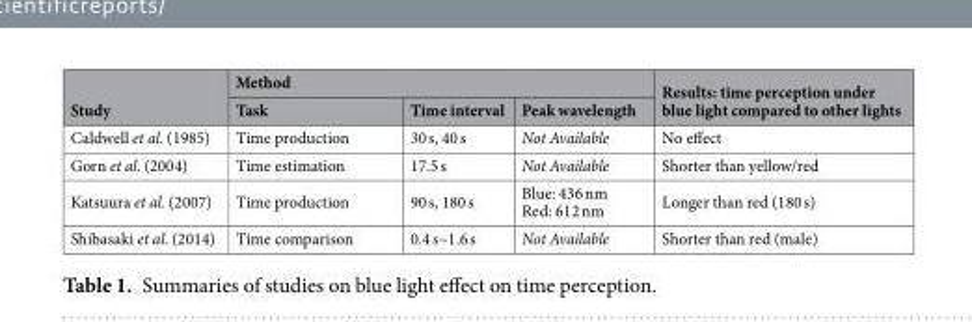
<table><thead><tr><td rowspan="2">Study</td><td colspan="3">Method</td><td rowspan="2">Results: time perception under blue light compared to other lights</td></tr><tr><td>Task</td><td>Time interval</td><td>Peak wavelength</td></tr></thead><tbody><tr><td>Caldwell et al. (1985)</td><td>Time production</td><td>30 s, 40 s</td><td>Not Available</td><td>No effect</td></tr><tr><td>Gorn et al. (2004)</td><td>Time estimation</td><td>17.5 s</td><td>Not Available</td><td>Shorter than yellow/red</td></tr><tr><td>Katsuura et al. (2007)</td><td>Time production</td><td>90 s, 180 s</td><td>Blue: 436 nm Red: 612 nm</td><td>Longer than red (180 s)</td></tr><tr><td>Shibasaki et al. (2014)</td><td>Time comparison</td><td>0.4 s~1.6 s</td><td>Not Available</td><td>Shorter than red (male)</td></tr></tbody></table>